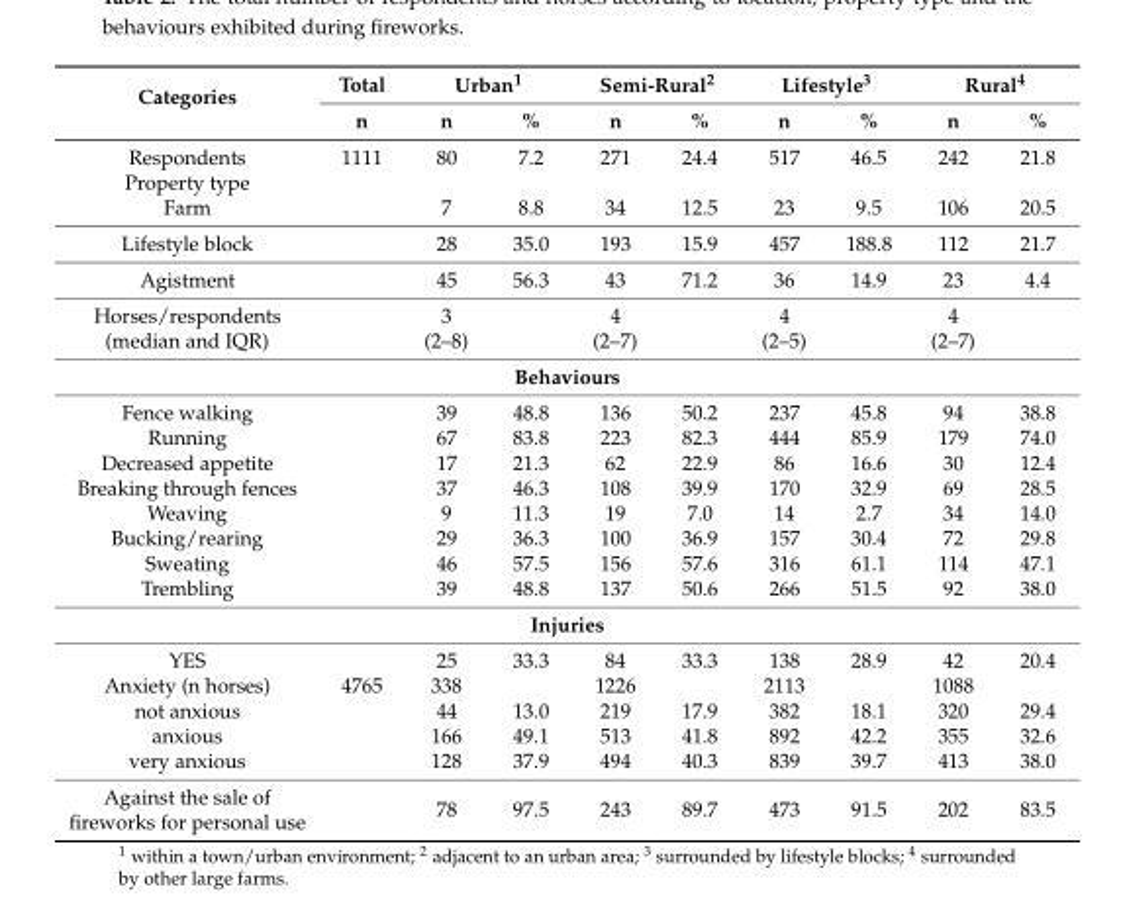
<table><thead><tr><td rowspan="2">Categories</td><td rowspan="2">Total n</td><td colspan="2">Urban<sup>1</sup></td><td colspan="2">Semi-Rural<sup>2</sup></td><td colspan="2">Lifestyle<sup>3</sup></td><td colspan="2">Rural<sup>4</sup></td></tr><tr><td>n</td><td>%</td><td>n</td><td>%</td><td>n</td><td>%</td><td>n</td><td>%</td></tr></thead><tbody><tr><td>Respondents</td><td>1111</td><td>80</td><td>7.2</td><td>271</td><td>24.4</td><td>517</td><td>46.5</td><td>242</td><td>21.8</td></tr><tr><td colspan="10">Property type</td></tr><tr><td>Farm</td><td></td><td>7</td><td>8.8</td><td>34</td><td>12.5</td><td>23</td><td>9.5</td><td>106</td><td>20.5</td></tr><tr><td>Lifestyle block</td><td></td><td>28</td><td>35.0</td><td>193</td><td>15.9</td><td>457</td><td>188.8</td><td>112</td><td>21.7</td></tr><tr><td>Agistment</td><td></td><td>45</td><td>56.3</td><td>43</td><td>71.2</td><td>36</td><td>14.9</td><td>23</td><td>4.4</td></tr><tr><td>Horses/respondents (median and IQR)</td><td></td><td>3 (2–8)</td><td></td><td>4 (2–7)</td><td></td><td>4 (2–5)</td><td></td><td>4 (2–7)</td><td></td></tr><tr><td colspan="10">Behaviours</td></tr><tr><td>Fence walking</td><td></td><td>39</td><td>48.8</td><td>136</td><td>50.2</td><td>237</td><td>45.8</td><td>94</td><td>38.8</td></tr><tr><td>Running</td><td></td><td>67</td><td>83.8</td><td>223</td><td>82.3</td><td>444</td><td>85.9</td><td>179</td><td>74.0</td></tr><tr><td>Decreased appetite</td><td></td><td>17</td><td>21.3</td><td>62</td><td>22.9</td><td>86</td><td>16.6</td><td>30</td><td>12.4</td></tr><tr><td>Breaking through fences</td><td></td><td>37</td><td>46.3</td><td>108</td><td>39.9</td><td>170</td><td>32.9</td><td>69</td><td>28.5</td></tr><tr><td>Weaving</td><td></td><td>9</td><td>11.3</td><td>19</td><td>7.0</td><td>14</td><td>2.7</td><td>34</td><td>14.0</td></tr><tr><td>Bucking/rearing</td><td></td><td>29</td><td>36.3</td><td>100</td><td>36.9</td><td>157</td><td>30.4</td><td>72</td><td>29.8</td></tr><tr><td>Sweating</td><td></td><td>46</td><td>57.5</td><td>156</td><td>57.6</td><td>316</td><td>61.1</td><td>114</td><td>47.1</td></tr><tr><td>Trembling</td><td></td><td>39</td><td>48.8</td><td>137</td><td>50.6</td><td>266</td><td>51.5</td><td>92</td><td>38.0</td></tr><tr><td colspan="10">Injuries</td></tr><tr><td>YES</td><td></td><td>25</td><td>33.3</td><td>84</td><td>33.3</td><td>138</td><td>28.9</td><td>42</td><td>20.4</td></tr><tr><td>Anxiety (n horses)</td><td>4765</td><td>338</td><td></td><td>1226</td><td></td><td>2113</td><td></td><td>1088</td><td></td></tr><tr><td>not anxious</td><td></td><td>44</td><td>13.0</td><td>219</td><td>17.9</td><td>382</td><td>18.1</td><td>320</td><td>29.4</td></tr><tr><td>anxious</td><td></td><td>166</td><td>49.1</td><td>513</td><td>41.8</td><td>892</td><td>42.2</td><td>355</td><td>32.6</td></tr><tr><td>very anxious</td><td></td><td>128</td><td>37.9</td><td>494</td><td>40.3</td><td>839</td><td>39.7</td><td>413</td><td>38.0</td></tr><tr><td>Against the sale of fireworks for personal use</td><td></td><td>78</td><td>97.5</td><td>243</td><td>89.7</td><td>473</td><td>91.5</td><td>202</td><td>83.5</td></tr></tbody></table>